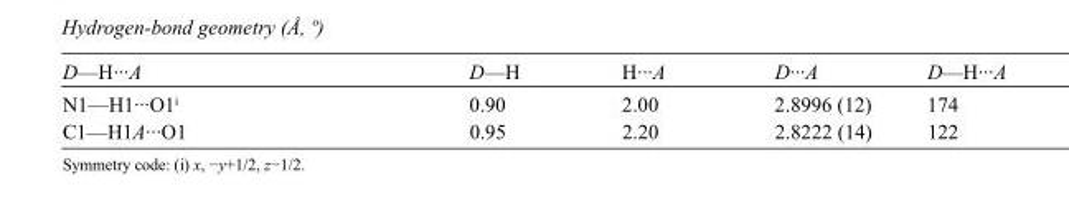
<table><tbody><tr><td>D—H···A</td><td>D—H</td><td>H···A</td><td>D···A</td><td>D—H···A</td></tr><tr><td>N1—H1···O1<sup>i</sup></td><td>0.90</td><td>2.00</td><td>2.8996 (12)</td><td>174</td></tr><tr><td>C1—H1A···O1</td><td>0.95</td><td>2.20</td><td>2.8222 (14)</td><td>122</td></tr></tbody></table>